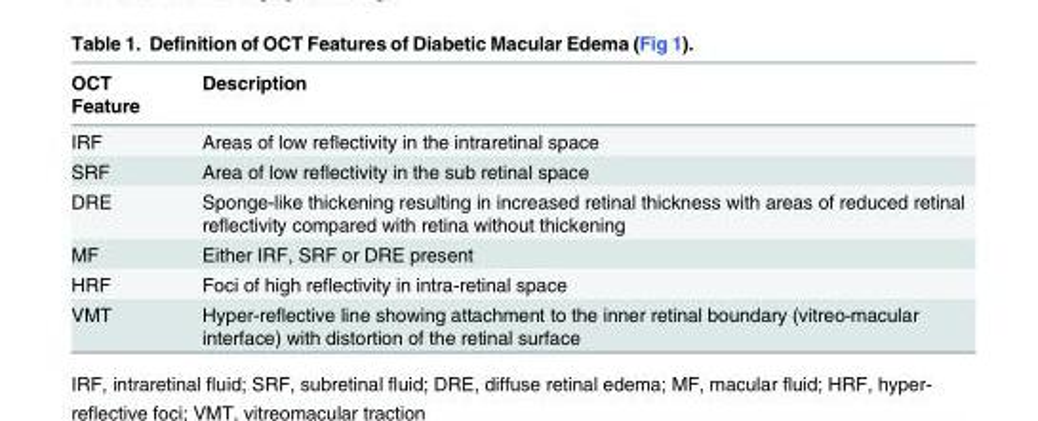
<table><thead><tr><td>OCT Feature</td><td>Description</td></tr></thead><tbody><tr><td>IRF</td><td>Areas of low reflectivity in the intraretinal space</td></tr><tr><td>SRF</td><td>Area of low reflectivity in the sub retinal space</td></tr><tr><td>DRE</td><td>Sponge-like thickening resulting in increased retinal thickness with areas of reduced retinal reflectivity compared with retina without thickening</td></tr><tr><td>MF</td><td>Either IRF, SRF or DRE present</td></tr><tr><td>HRF</td><td>Foci of high reflectivity in intra-retinal space</td></tr><tr><td>VMT</td><td>Hyper-reflective line showing attachment to the inner retinal boundary (vitreo-macular interface) with distortion of the retinal surface</td></tr></tbody></table>